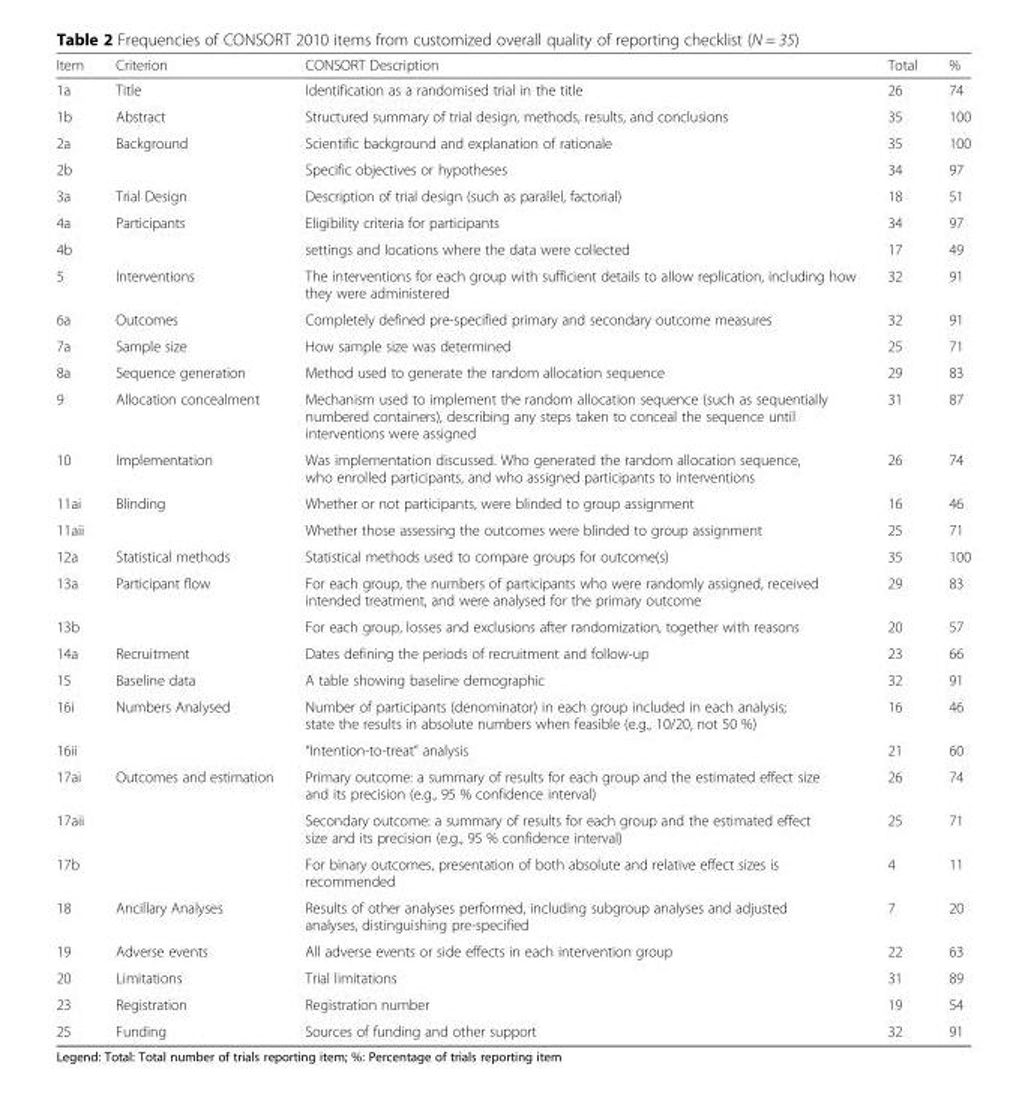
<table><thead><tr><td>Item</td><td>Criterion</td><td>CONSORT Description</td><td>Total</td><td>%</td></tr></thead><tbody><tr><td>1a</td><td>Title</td><td>Identification as a randomised trial in the title</td><td>26</td><td>74</td></tr><tr><td>1b</td><td>Abstract</td><td>Structured summary of trial design, methods, results, and conclusions</td><td>35</td><td>100</td></tr><tr><td>2a</td><td>Background</td><td>Scientific background and explanation of rationale</td><td>35</td><td>100</td></tr><tr><td>2b</td><td></td><td>Specific objectives or hypotheses</td><td>34</td><td>97</td></tr><tr><td>3a</td><td>Trial Design</td><td>Description of trial design (such as parallel, factorial)</td><td>18</td><td>51</td></tr><tr><td>4a</td><td>Participants</td><td>Eligibility criteria for participants</td><td>34</td><td>97</td></tr><tr><td>4b</td><td></td><td>settings and locations where the data were collected</td><td>17</td><td>49</td></tr><tr><td>5</td><td>Interventions</td><td>The interventions for each group with sufficient details to allow replication, including how they were administered</td><td>32</td><td>91</td></tr><tr><td>6a</td><td>Outcomes</td><td>Completely defined pre-specified primary and secondary outcome measures</td><td>32</td><td>91</td></tr><tr><td>7a</td><td>Sample size</td><td>How sample size was determined</td><td>25</td><td>71</td></tr><tr><td>8a</td><td>Sequence generation</td><td>Method used to generate the random allocation sequence</td><td>29</td><td>83</td></tr><tr><td>9</td><td>Allocation concealment</td><td>Mechanism used to implement the random allocation sequence (such as sequentially numbered containers), describing any steps taken to conceal the sequence until interventions were assigned</td><td>31</td><td>87</td></tr><tr><td>10</td><td>Implementation</td><td>Was implementation discussed. Who generated the random allocation sequence, who enrolled participants, and who assigned participants to interventions</td><td>26</td><td>74</td></tr><tr><td>11ai</td><td>Blinding</td><td>Whether or not participants, were blinded to group assignment</td><td>16</td><td>46</td></tr><tr><td>11aii</td><td></td><td>Whether those assessing the outcomes were blinded to group assignment</td><td>25</td><td>71</td></tr><tr><td>12a</td><td>Statistical methods</td><td>Statistical methods used to compare groups for outcome(s)</td><td>35</td><td>100</td></tr><tr><td>13a</td><td>Participant flow</td><td>For each group, the numbers of participants who were randomly assigned, received intended treatment, and were analysed for the primary outcome</td><td>29</td><td>83</td></tr><tr><td>13b</td><td></td><td>For each group, losses and exclusions after randomization, together with reasons</td><td>20</td><td>57</td></tr><tr><td>14a</td><td>Recruitment</td><td>Dates defining the periods of recruitment and follow-up</td><td>23</td><td>66</td></tr><tr><td>15</td><td>Baseline data</td><td>A table showing baseline demographic</td><td>32</td><td>91</td></tr><tr><td>16i</td><td>Numbers Analysed</td><td>Number of participants (denominator) in each group included in each analysis; state the results in absolute numbers when feasible (e.g., 10/20, not 50 %)</td><td>16</td><td>46</td></tr><tr><td>16ii</td><td></td><td>“Intention-to-treat” analysis</td><td>21</td><td>60</td></tr><tr><td>17ai</td><td>Outcomes and estimation</td><td>Primary outcome: a summary of results for each group and the estimated effect size and its precision (e.g., 95 % confidence interval)</td><td>26</td><td>74</td></tr><tr><td>17aii</td><td></td><td>Secondary outcome: a summary of results for each group and the estimated effect size and its precision (e.g., 95 % confidence interval)</td><td>25</td><td>71</td></tr><tr><td>17b</td><td></td><td>For binary outcomes, presentation of both absolute and relative effect sizes is recommended</td><td>4</td><td>11</td></tr><tr><td>18</td><td>Ancillary Analyses</td><td>Results of other analyses performed, including subgroup analyses and adjusted analyses, distinguishing pre-specified</td><td>7</td><td>20</td></tr><tr><td>19</td><td>Adverse events</td><td>All adverse events or side effects in each intervention group</td><td>22</td><td>63</td></tr><tr><td>20</td><td>Limitations</td><td>Trial limitations</td><td>31</td><td>89</td></tr><tr><td>23</td><td>Registration</td><td>Registration number</td><td>19</td><td>54</td></tr><tr><td>25</td><td>Funding</td><td>Sources of funding and other support</td><td>32</td><td>91</td></tr></tbody></table>